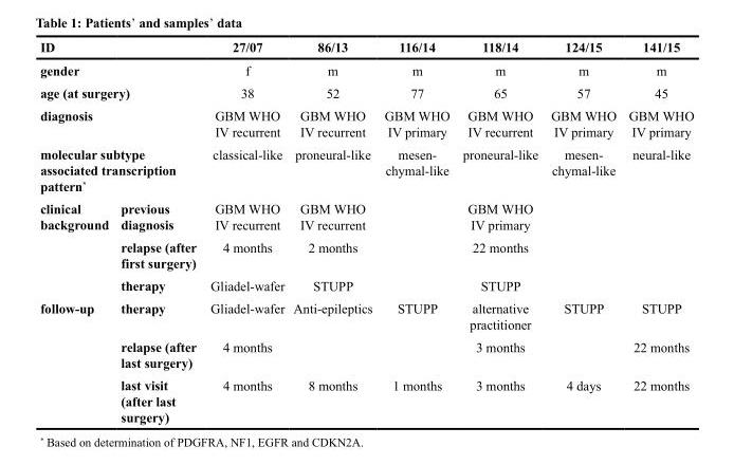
<table><thead><tr><td colspan="2">ID</td><td>27/07</td><td>86/13</td><td>116/14</td><td>118/14</td><td>124/15</td><td>141/15</td></tr></thead><tbody><tr><td colspan="2">gender</td><td>f</td><td>m</td><td>m</td><td>m</td><td>m</td><td>m</td></tr><tr><td colspan="2">age (at surgery)</td><td>38</td><td>52</td><td>77</td><td>65</td><td>57</td><td>45</td></tr><tr><td colspan="2">diagnosis</td><td>GBM WHO IV recurrent</td><td>GBM WHO IV recurrent</td><td>GBM WHO IV primary</td><td>GBM WHO IV recurrent</td><td>GBM WHO IV primary</td><td>GBM WHO IV primary</td></tr><tr><td colspan="2">molecular subtype associated transcription pattern*</td><td>classical-like</td><td>proneural-like</td><td>mesen- chymal-like</td><td>proneural-like</td><td>mesen- chymal-like</td><td>neural-like</td></tr><tr><td rowspan="3">clinical background</td><td>previous diagnosis</td><td>GBM WHO IV recurrent</td><td>GBM WHO IV recurrent</td><td></td><td>GBM WHO IV primary</td><td></td><td></td></tr><tr><td>relapse (after first surgery)</td><td>4 months</td><td>2 months</td><td></td><td>22 months</td><td></td><td></td></tr><tr><td>therapy</td><td>Gliadel-wafer</td><td>STUPP</td><td></td><td>STUPP</td><td></td><td></td></tr><tr><td rowspan="3">follow-up</td><td>therapy</td><td>Gliadel-wafer</td><td>Anti-epileptics</td><td>STUPP</td><td>alternative practitioner</td><td>STUPP</td><td>STUPP</td></tr><tr><td>relapse (after last surgery)</td><td>4 months</td><td></td><td></td><td>3 months</td><td></td><td>22 months</td></tr><tr><td>last visit (after last surgery)</td><td>4 months</td><td>8 months</td><td>1 months</td><td>3 months</td><td>4 days</td><td>22 months</td></tr></tbody></table>